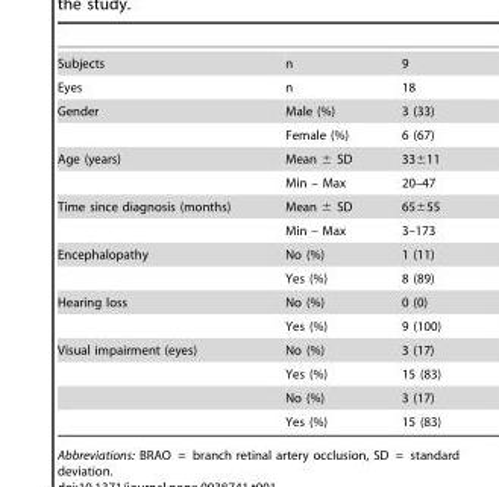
<table><tbody><tr><td>Subjects</td><td>n</td><td>9</td></tr><tr><td>Eyes</td><td>n</td><td>18</td></tr><tr><td rowspan="2">Gender</td><td>Male (%)</td><td>3 (33)</td></tr><tr><td>Female (%)</td><td>6 (67)</td></tr><tr><td rowspan="2">Age (years)</td><td>Mean ± SD</td><td>33±11</td></tr><tr><td>Min – Max</td><td>20–47</td></tr><tr><td rowspan="2">Time since diagnosis (months)</td><td>Mean ± SD</td><td>65±55</td></tr><tr><td>Min – Max</td><td>3–173</td></tr><tr><td rowspan="2">Encephalopathy</td><td>No (%)</td><td>1 (11)</td></tr><tr><td>Yes (%)</td><td>8 (89)</td></tr><tr><td rowspan="2">Hearing loss</td><td>No (%)</td><td>0 (0)</td></tr><tr><td>Yes (%)</td><td>9 (100)</td></tr><tr><td rowspan="4">Visual impairment (eyes)</td><td>No (%)</td><td>3 (17)</td></tr><tr><td>Yes (%)</td><td>15 (83)</td></tr><tr><td>No (%)</td><td>3 (17)</td></tr><tr><td>Yes (%)</td><td>15 (83)</td></tr></tbody></table>